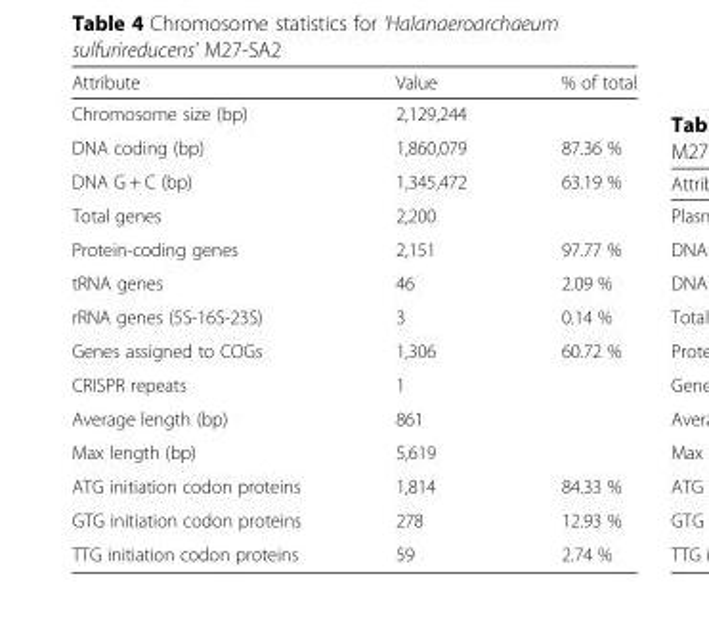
<table><thead><tr><td>Attribute</td><td>Value</td><td>% of total</td></tr></thead><tbody><tr><td>Chromosome size (bp)</td><td>2,129,244</td><td></td></tr><tr><td>DNA coding (bp)</td><td>1,860,079</td><td>87.36 %</td></tr><tr><td>DNA G + C (bp)</td><td>1,345,472</td><td>63.19 %</td></tr><tr><td>Total genes</td><td>2,200</td><td></td></tr><tr><td>Protein-coding genes</td><td>2,151</td><td>97.77 %</td></tr><tr><td>tRNA genes</td><td>46</td><td>2.09 %</td></tr><tr><td>rRNA genes (5S-16S-23S)</td><td>3</td><td>0.14 %</td></tr><tr><td>Genes assigned to COGs</td><td>1,306</td><td>60.72 %</td></tr><tr><td>CRISPR repeats</td><td>1</td><td></td></tr><tr><td>Average length (bp)</td><td>861</td><td></td></tr><tr><td>Max length (bp)</td><td>5,619</td><td></td></tr><tr><td>ATG initiation codon proteins</td><td>1,814</td><td>84.33 %</td></tr><tr><td>GTG initiation codon proteins</td><td>278</td><td>12.93 %</td></tr><tr><td>TTG initiation codon proteins</td><td>59</td><td>2.74 %</td></tr></tbody></table>